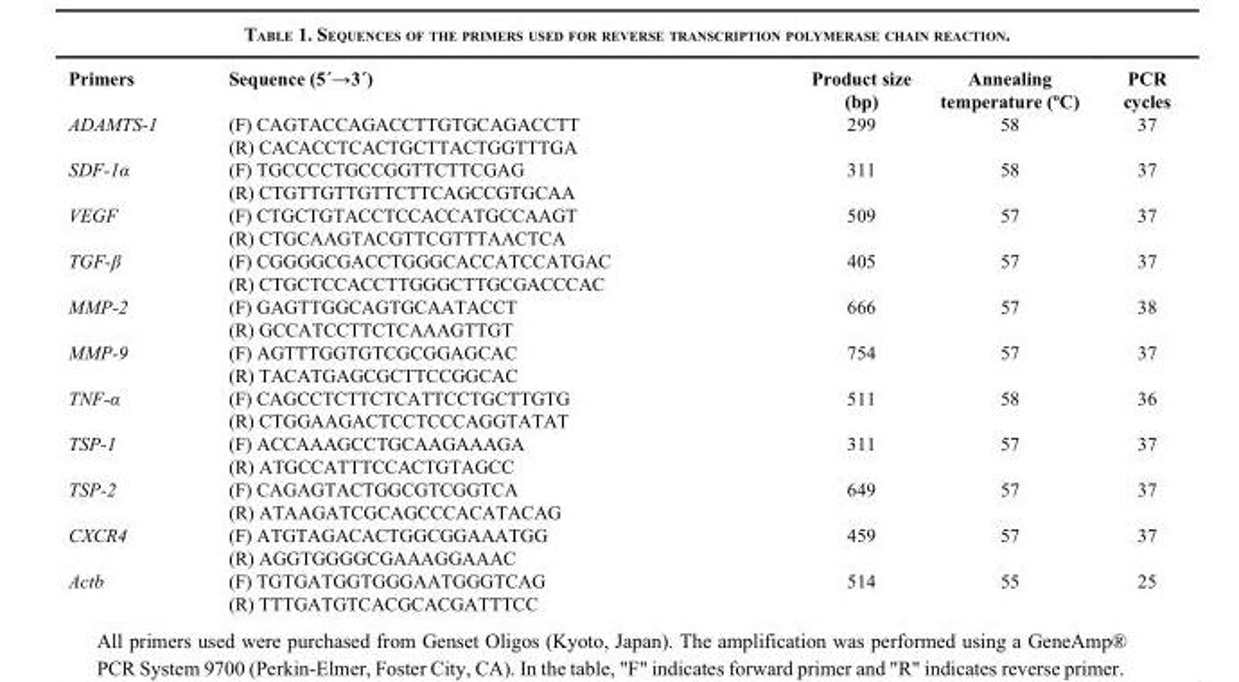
<table><thead><tr><td>Primers</td><td>Sequence (5´→3´)</td><td>Product size (bp)</td><td>Annealing temperature (ºC)</td><td>PCR cycles</td></tr></thead><tbody><tr><td rowspan="2">ADAMTS-1</td><td>(F) CAGTACCAGACCTTGTGCAGACCTT</td><td>299</td><td>58</td><td>37</td></tr><tr><td>(R) CACACCTCACTGCTTACTGGTTTGA</td><td></td><td></td><td></td></tr><tr><td rowspan="2">SDF-1α</td><td>(F) TGCCCCTGCCGGTTCTTCGAG</td><td>311</td><td>58</td><td>37</td></tr><tr><td>(R) CTGTTGTTGTTCTTCAGCCGTGCAA</td><td></td><td></td><td></td></tr><tr><td rowspan="2">VEGF</td><td>(F) CTGCTGTACCTCCACCATGCCAAGT</td><td>509</td><td>57</td><td>37</td></tr><tr><td>(R) CTGCAAGTACGTTCGTTTAACTCA</td><td></td><td></td><td></td></tr><tr><td rowspan="2">TGF-β</td><td>(F) CGGGGCGACCTGGGCACCATCCATGAC</td><td>405</td><td>57</td><td>37</td></tr><tr><td>(R) CTGCTCCACCTTGGGCTTGCGACCCAC</td><td></td><td></td><td></td></tr><tr><td rowspan="2">MMP-2</td><td>(F) GAGTTGGCAGTGCAATACCT</td><td>666</td><td>57</td><td>38</td></tr><tr><td>(R) GCCATCCTTCTCAAAGTTGT</td><td></td><td></td><td></td></tr><tr><td rowspan="2">MMP-9</td><td>(F) AGTTTGGTGTCGCGGAGCAC</td><td>754</td><td>57</td><td>37</td></tr><tr><td>(R) TACATGAGCGCTTCCGGCAC</td><td></td><td></td><td></td></tr><tr><td rowspan="2">TNF-α</td><td>(F) CAGCCTCTTCTCATTCCTGCTTGTG</td><td>511</td><td>58</td><td>36</td></tr><tr><td>(R) CTGGAAGACTCCTCCCAGGTATAT</td><td></td><td></td><td></td></tr><tr><td rowspan="2">TSP-1</td><td>(F) ACCAAAGCCTGCAAGAAAGA</td><td>311</td><td>57</td><td>37</td></tr><tr><td>(R) ATGCCATTTCCACTGTAGCC</td><td></td><td></td><td></td></tr><tr><td rowspan="2">TSP-2</td><td>(F) CAGAGTACTGGCGTCGGTCA</td><td>649</td><td>57</td><td>37</td></tr><tr><td>(R) ATAAGATCGCAGCCCACATACAG</td><td></td><td></td><td></td></tr><tr><td rowspan="2">CXCR4</td><td>(F) ATGTAGACACTGGCGGAAATGG</td><td>459</td><td>57</td><td>37</td></tr><tr><td>(R) AGGTGGGGCGAAAGGAAAC</td><td></td><td></td><td></td></tr><tr><td rowspan="2">Actb</td><td>(F) TGTGATGGTGGGAATGGGTCAG</td><td>514</td><td>55</td><td>25</td></tr><tr><td>(R) TTTGATGTCACGCACGATTTCC</td><td></td><td></td><td></td></tr></tbody></table>